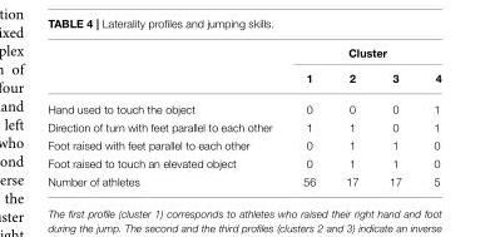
<table><thead><tr><td rowspan="2"></td><td colspan="4">Cluster</td></tr><tr><td>1</td><td>2</td><td>3</td><td>4</td></tr></thead><tbody><tr><td>Hand used to touch the object</td><td>0</td><td>0</td><td>0</td><td>1</td></tr><tr><td>Direction of turn with feet parallel to each other</td><td>1</td><td>1</td><td>0</td><td>1</td></tr><tr><td>Foot raised with feet parallel to each other</td><td>0</td><td>1</td><td>1</td><td>0</td></tr><tr><td>Foot raised to touch an elevated object</td><td>0</td><td>1</td><td>1</td><td>0</td></tr><tr><td>Number of athletes</td><td>56</td><td>17</td><td>17</td><td>5</td></tr></tbody></table>